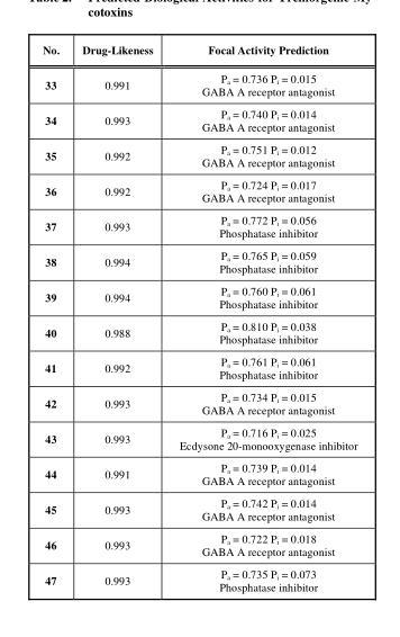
<table><thead><tr><td>No.</td><td>Drug-Likeness</td><td>Focal Activity Prediction</td></tr></thead><tbody><tr><td>33</td><td>0.991</td><td>P<sub>a</sub> = 0.736 P<sub>i</sub> = 0.015 GABA A receptor antagonist</td></tr><tr><td>34</td><td>0.993</td><td>P<sub>a</sub> = 0.740 P<sub>i</sub> = 0.014 GABA A receptor antagonist</td></tr><tr><td>35</td><td>0.992</td><td>P<sub>a</sub> = 0.751 P<sub>i</sub> = 0.012 GABA A receptor antagonist</td></tr><tr><td>36</td><td>0.992</td><td>P<sub>a</sub> = 0.724 P<sub>i</sub> = 0.017 GABA A receptor antagonist</td></tr><tr><td>37</td><td>0.993</td><td>P<sub>a</sub> = 0.772 P<sub>i</sub> = 0.056 Phosphatase inhibitor</td></tr><tr><td>38</td><td>0.994</td><td>P<sub>a</sub> = 0.765 P<sub>i</sub> = 0.059 Phosphatase inhibitor</td></tr><tr><td>39</td><td>0.994</td><td>P<sub>a</sub> = 0.760 P<sub>i</sub> = 0.061 Phosphatase inhibitor</td></tr><tr><td>40</td><td>0.988</td><td>P<sub>a</sub> = 0.810 P<sub>i</sub> = 0.038 Phosphatase inhibitor</td></tr><tr><td>41</td><td>0.992</td><td>P<sub>a</sub> = 0.761 P<sub>i</sub> = 0.061 Phosphatase inhibitor</td></tr><tr><td>42</td><td>0.993</td><td>P<sub>a</sub> = 0.734 P<sub>i</sub> = 0.015 GABA A receptor antagonist</td></tr><tr><td>43</td><td>0.993</td><td>P<sub>a</sub> = 0.716 P<sub>i</sub> = 0.025 Ecdysone 20-monooxygenase inhibitor</td></tr><tr><td>44</td><td>0.991</td><td>P<sub>a</sub> = 0.739 P<sub>i</sub> = 0.014 GABA A receptor antagonist</td></tr><tr><td>45</td><td>0.993</td><td>P<sub>a</sub> = 0.742 P<sub>i</sub> = 0.014 GABA A receptor antagonist</td></tr><tr><td>46</td><td>0.993</td><td>P<sub>a</sub> = 0.722 P<sub>i</sub> = 0.018 GABA A receptor antagonist</td></tr><tr><td>47</td><td>0.993</td><td>P<sub>a</sub> = 0.735 P<sub>i</sub> = 0.073 Phosphatase inhibitor</td></tr></tbody></table>